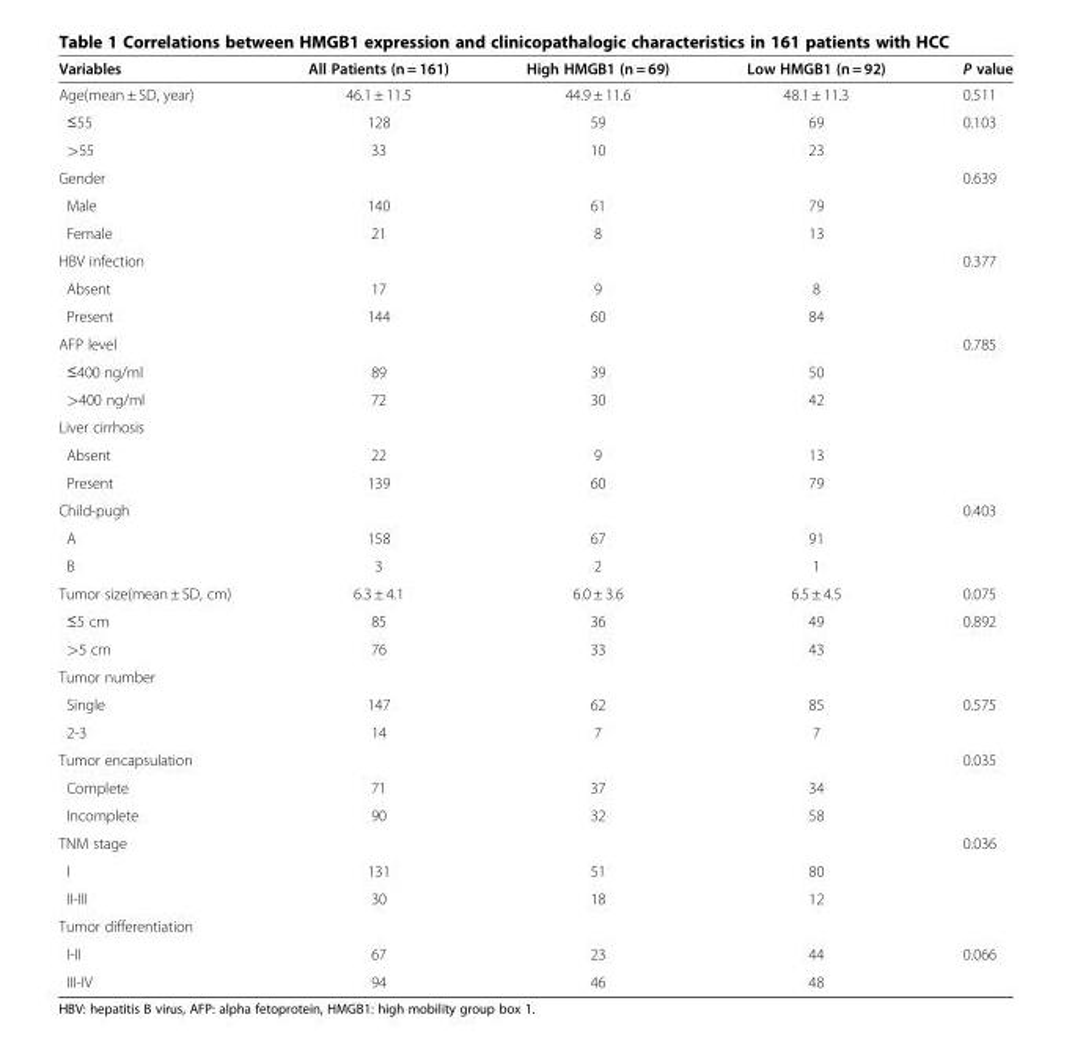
<table><thead><tr><td>Variables</td><td>All Patients (n = 161)</td><td>High HMGB1 (n = 69)</td><td>Low HMGB1 (n = 92)</td><td>P value</td></tr></thead><tbody><tr><td>Age(mean ± SD, year)</td><td>46.1 ± 11.5</td><td>44.9 ± 11.6</td><td>48.1 ± 11.3</td><td>0.511</td></tr><tr><td>≤55</td><td>128</td><td>59</td><td>69</td><td>0.103</td></tr><tr><td>&gt;55</td><td>33</td><td>10</td><td>23</td><td></td></tr><tr><td colspan="4">Gender</td><td>0.639</td></tr><tr><td>Male</td><td>140</td><td>61</td><td>79</td><td></td></tr><tr><td>Female</td><td>21</td><td>8</td><td>13</td><td></td></tr><tr><td colspan="4">HBV infection</td><td>0.377</td></tr><tr><td>Absent</td><td>17</td><td>9</td><td>8</td><td></td></tr><tr><td>Present</td><td>144</td><td>60</td><td>84</td><td></td></tr><tr><td colspan="4">AFP level</td><td>0.785</td></tr><tr><td>≤400 ng/ml</td><td>89</td><td>39</td><td>50</td><td></td></tr><tr><td>&gt;400 ng/ml</td><td>72</td><td>30</td><td>42</td><td></td></tr><tr><td colspan="5">Liver cirrhosis</td></tr><tr><td>Absent</td><td>22</td><td>9</td><td>13</td><td></td></tr><tr><td>Present</td><td>139</td><td>60</td><td>79</td><td></td></tr><tr><td colspan="4">Child-pugh</td><td>0.403</td></tr><tr><td>A</td><td>158</td><td>67</td><td>91</td><td></td></tr><tr><td>B</td><td>3</td><td>2</td><td>1</td><td></td></tr><tr><td>Tumor size(mean ± SD, cm)</td><td>6.3 ± 4.1</td><td>6.0 ± 3.6</td><td>6.5 ± 4.5</td><td>0.075</td></tr><tr><td>≤5 cm</td><td>85</td><td>36</td><td>49</td><td>0.892</td></tr><tr><td>&gt;5 cm</td><td>76</td><td>33</td><td>43</td><td></td></tr><tr><td colspan="5">Tumor number</td></tr><tr><td>Single</td><td>147</td><td>62</td><td>85</td><td>0.575</td></tr><tr><td>2-3</td><td>14</td><td>7</td><td>7</td><td></td></tr><tr><td>Tumor encapsulation</td><td></td><td></td><td></td><td>0.035</td></tr><tr><td>Complete</td><td>71</td><td>37</td><td>34</td><td></td></tr><tr><td>Incomplete</td><td>90</td><td>32</td><td>58</td><td></td></tr><tr><td>TNM stage</td><td></td><td></td><td></td><td>0.036</td></tr><tr><td>I</td><td>131</td><td>51</td><td>80</td><td></td></tr><tr><td>II-III</td><td>30</td><td>18</td><td>12</td><td></td></tr><tr><td colspan="5">Tumor differentiation</td></tr><tr><td>I-II</td><td>67</td><td>23</td><td>44</td><td>0.066</td></tr><tr><td>III-IV</td><td>94</td><td>46</td><td>48</td><td></td></tr></tbody></table>